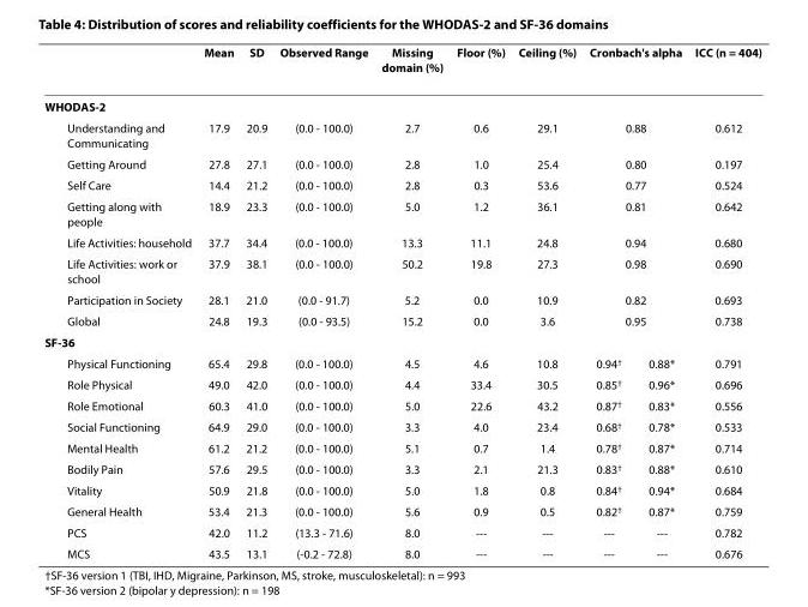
<table><thead><tr><td rowspan="2">WHODAS-2</td><td rowspan="2">Mean</td><td rowspan="2">SD</td><td rowspan="2">Observed Range</td><td rowspan="2">Missing domain (%)</td><td rowspan="2">Floor (%)</td><td rowspan="2">Ceiling (%)</td><td colspan="2">Cronbach&#x27;s alpha</td><td rowspan="2">ICC (n = 404)</td></tr><tr><td></td><td></td></tr></thead><tbody><tr><td>Understanding and Communicating</td><td>17.9</td><td>20.9</td><td>(0.0 - 100.0)</td><td>2.7</td><td>0.6</td><td>29.1</td><td colspan="2">0.88</td><td>0.612</td></tr><tr><td>Getting Around</td><td>27.8</td><td>27.1</td><td>(0.0 - 100.0)</td><td>2.8</td><td>1.0</td><td>25.4</td><td colspan="2">0.80</td><td>0.197</td></tr><tr><td>Self Care</td><td>14.4</td><td>21.2</td><td>(0.0 - 100.0)</td><td>2.8</td><td>0.3</td><td>53.6</td><td colspan="2">0.77</td><td>0.524</td></tr><tr><td>Getting along with people</td><td>18.9</td><td>23.3</td><td>(0.0 - 100.0)</td><td>5.0</td><td>1.2</td><td>36.1</td><td colspan="2">0.81</td><td>0.642</td></tr><tr><td>Life Activities: household</td><td>37.7</td><td>34.4</td><td>(0.0 - 100.0)</td><td>13.3</td><td>11.1</td><td>24.8</td><td colspan="2">0.94</td><td>0.680</td></tr><tr><td>Life Activities: work or school</td><td>37.9</td><td>38.1</td><td>(0.0 - 100.0)</td><td>50.2</td><td>19.8</td><td>27.3</td><td colspan="2">0.98</td><td>0.690</td></tr><tr><td>Participation in Society</td><td>28.1</td><td>21.0</td><td>(0.0 - 91.7)</td><td>5.2</td><td>0.0</td><td>10.9</td><td colspan="2">0.82</td><td>0.693</td></tr><tr><td>Global</td><td>24.8</td><td>19.3</td><td>(0.0 - 93.5)</td><td>15.2</td><td>0.0</td><td>3.6</td><td colspan="2">0.95</td><td>0.738</td></tr><tr><td colspan="10">SF-36</td></tr><tr><td>Physical Functioning</td><td>65.4</td><td>29.8</td><td>(0.0 - 100.0)</td><td>4.5</td><td>4.6</td><td>10.8</td><td>0.94<sup>†</sup></td><td>0.88*</td><td>0.791</td></tr><tr><td>Role Physical</td><td>49.0</td><td>42.0</td><td>(0.0 - 100.0)</td><td>4.4</td><td>33.4</td><td>30.5</td><td>0.85<sup>†</sup></td><td>0.96*</td><td>0.696</td></tr><tr><td>Role Emotional</td><td>60.3</td><td>41.0</td><td>(0.0 - 100.0)</td><td>5.0</td><td>22.6</td><td>43.2</td><td>0.87<sup>†</sup></td><td>0.83*</td><td>0.556</td></tr><tr><td>Social Functioning</td><td>64.9</td><td>29.0</td><td>(0.0 - 100.0)</td><td>3.3</td><td>4.0</td><td>23.4</td><td>0.68<sup>†</sup></td><td>0.78*</td><td>0.533</td></tr><tr><td>Mental Health</td><td>61.2</td><td>21.2</td><td>(0.0 - 100.0)</td><td>5.1</td><td>0.7</td><td>1.4</td><td>0.78<sup>†</sup></td><td>0.87*</td><td>0.714</td></tr><tr><td>Bodily Pain</td><td>57.6</td><td>29.5</td><td>(0.0 - 100.0)</td><td>3.3</td><td>2.1</td><td>21.3</td><td>0.83<sup>†</sup></td><td>0.88*</td><td>0.610</td></tr><tr><td>Vitality</td><td>50.9</td><td>21.8</td><td>(0.0 - 100.0)</td><td>5.0</td><td>1.8</td><td>0.8</td><td>0.84<sup>†</sup></td><td>0.94*</td><td>0.684</td></tr><tr><td>General Health</td><td>53.4</td><td>21.3</td><td>(0.0 - 100.0)</td><td>5.6</td><td>0.9</td><td>0.5</td><td>0.82<sup>†</sup></td><td>0.87*</td><td>0.759</td></tr><tr><td>PCS</td><td>42.0</td><td>11.2</td><td>(13.3 - 71.6)</td><td>8.0</td><td>---</td><td>---</td><td>---</td><td>---</td><td>0.782</td></tr><tr><td>MCS</td><td>43.5</td><td>13.1</td><td>(-0.2 - 72.8)</td><td>8.0</td><td>---</td><td>---</td><td>---</td><td>---</td><td>0.676</td></tr></tbody></table>